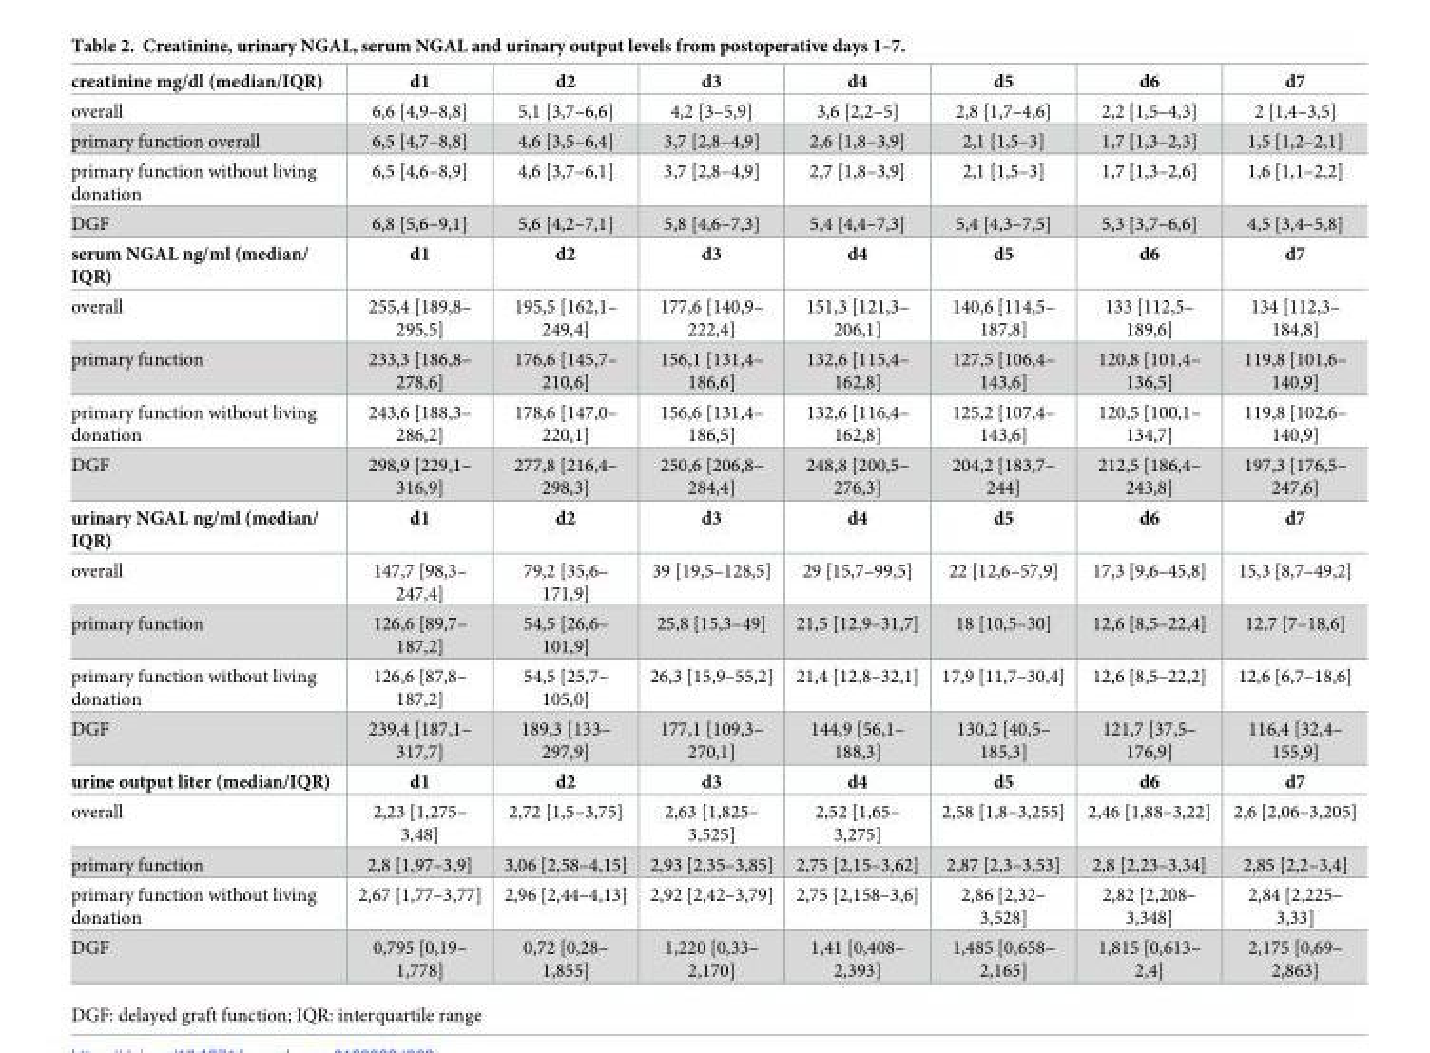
<table><tbody><tr><td>creatinine mg/dl (median/IQR)</td><td>d1</td><td>d2</td><td>d3</td><td>d4</td><td>d5</td><td>d6</td><td>d7</td></tr><tr><td>overall</td><td>6,6 [4,9–8,8]</td><td>5,1 [3,7–6,6]</td><td>4,2 [3–5,9]</td><td>3,6 [2,2–5]</td><td>2,8 [1,7–4,6]</td><td>2,2 [1,5–4,3]</td><td>2 [1,4–3,5]</td></tr><tr><td>primary function overall</td><td>6,5 [4,7–8,8]</td><td>4,6 [3,5–6,4]</td><td>3,7 [2,8–4,9]</td><td>2,6 [1,8–3,9]</td><td>2,1 [1,5–3]</td><td>1,7 [1,3–2,3]</td><td>1,5 [1,2–2,1]</td></tr><tr><td>primary function without living donation</td><td>6,5 [4,6–8,9]</td><td>4,6 [3,7–6,1]</td><td>3,7 [2,8–4,9]</td><td>2,7 [1,8–3,9]</td><td>2,1 [1,5–3]</td><td>1,7 [1,3–2,6]</td><td>1,6 [1,1–2,2]</td></tr><tr><td>DGF</td><td>6,8 [5,6–9,1]</td><td>5,6 [4,2–7,1]</td><td>5,8 [4,6–7,3]</td><td>5,4 [4,4–7,3]</td><td>5,4 [4,3–7,5]</td><td>5,3 [3,7–6,6]</td><td>4,5 [3,4–5,8]</td></tr><tr><td>serum NGAL ng/ml (median/ IQR)</td><td>d1</td><td>d2</td><td>d3</td><td>d4</td><td>d5</td><td>d6</td><td>d7</td></tr><tr><td>overall</td><td>255,4 [189,8– 295,5]</td><td>195,5 [162,1– 249,4]</td><td>177,6 [140,9– 222,4]</td><td>151,3 [121,3– 206,1]</td><td>140,6 [114,5– 187,8]</td><td>133 [112,5– 189,6]</td><td>134 [112,3– 184,8]</td></tr><tr><td>primary function</td><td>233,3 [186,8– 278,6]</td><td>176,6 [145,7– 210,6]</td><td>156,1 [131,4– 186,6]</td><td>132,6 [115,4– 162,8]</td><td>127,5 [106,4– 143,6]</td><td>120,8 [101,4– 136,5]</td><td>119,8 [101,6– 140,9]</td></tr><tr><td>primary function without living donation</td><td>243,6 [188,3– 286,2]</td><td>178,6 [147,0– 220,1]</td><td>156,6 [131,4– 186,5]</td><td>132,6 [116,4– 162,8]</td><td>125,2 [107,4– 143,6]</td><td>120,5 [100,1– 134,7]</td><td>119,8 [102,6– 140,9]</td></tr><tr><td>DGF</td><td>298,9 [229,1– 316,9]</td><td>277,8 [216,4– 298,3]</td><td>250,6 [206,8– 284,4]</td><td>248,8 [200,5– 276,3]</td><td>204,2 [183,7– 244]</td><td>212,5 [186,4– 243,8]</td><td>197,3 [176,5– 247,6]</td></tr><tr><td>urinary NGAL ng/ml (median/ IQR)</td><td>d1</td><td>d2</td><td>d3</td><td>d4</td><td>d5</td><td>d6</td><td>d7</td></tr><tr><td>overall</td><td>147,7 [98,3– 247,4]</td><td>79,2 [35,6– 171,9]</td><td>39 [19,5–128,5]</td><td>29 [15,7–99,5]</td><td>22 [12,6–57,9]</td><td>17,3 [9,6–45,8]</td><td>15,3 [8,7–49,2]</td></tr><tr><td>primary function</td><td>126,6 [89,7– 187,2]</td><td>54,5 [26,6– 101,9]</td><td>25,8 [15,3–49]</td><td>21,5 [12,9–31,7]</td><td>18 [10,5–30]</td><td>12,6 [8,5–22,4]</td><td>12,7 [7–18,6]</td></tr><tr><td>primary function without living donation</td><td>126,6 [87,8– 187,2]</td><td>54,5 [25,7– 105,0]</td><td>26,3 [15,9–55,2]</td><td>21,4 [12,8–32,1]</td><td>17,9 [11,7–30,4]</td><td>12,6 [8,5–22,2]</td><td>12,6 [6,7–18,6]</td></tr><tr><td>DGF</td><td>239,4 [187,1– 317,7]</td><td>189,3 [133– 297,9]</td><td>177,1 [109,3– 270,1]</td><td>144,9 [56,1– 188,3]</td><td>130,2 [40,5– 185,3]</td><td>121,7 [37,5– 176,9]</td><td>116,4 [32,4– 155,9]</td></tr><tr><td>urine output liter (median/IQR)</td><td>d1</td><td>d2</td><td>d3</td><td>d4</td><td>d5</td><td>d6</td><td>d7</td></tr><tr><td>overall</td><td>2,23 [1,275– 3,48]</td><td>2,72 [1,5–3,75]</td><td>2,63 [1,825– 3,525]</td><td>2,52 [1,65– 3,275]</td><td>2,58 [1,8–3,255]</td><td>2,46 [1,88–3,22]</td><td>2,6 [2,06–3,205]</td></tr><tr><td>primary function</td><td>2,8 [1,97–3,9]</td><td>3,06 [2,58–4,15]</td><td>2,93 [2,35–3,85]</td><td>2,75 [2,15–3,62]</td><td>2,87 [2,3–3,53]</td><td>2,8 [2,23–3,34]</td><td>2,85 [2,2–3,4]</td></tr><tr><td>primary function without living donation</td><td>2,67 [1,77–3,77]</td><td>2,96 [2,44–4,13]</td><td>2,92 [2,42–3,79]</td><td>2,75 [2,158–3,6]</td><td>2,86 [2,32– 3,528]</td><td>2,82 [2,208– 3,348]</td><td>2,84 [2,225– 3,33]</td></tr><tr><td>DGF</td><td>0,795 [0,19– 1,778]</td><td>0,72 [0,28– 1,855]</td><td>1,220 [0,33– 2,170]</td><td>1,41 [0,408– 2,393]</td><td>1,485 [0,658– 2,165]</td><td>1,815 [0,613– 2,4]</td><td>2,175 [0,69– 2,863]</td></tr></tbody></table>